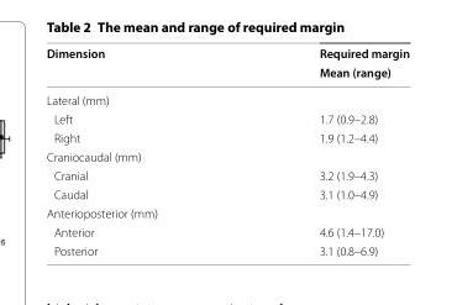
<table><thead><tr><td rowspan="2">Dimension</td><td rowspan="2">Required margin Mean (range)</td></tr><tr></tr></thead><tbody><tr><td colspan="2">Lateral (mm)</td></tr><tr><td>Left</td><td>1.7 (0.9–2.8)</td></tr><tr><td>Right</td><td>1.9 (1.2–4.4)</td></tr><tr><td colspan="2">Craniocaudal (mm)</td></tr><tr><td>Cranial</td><td>3.2 (1.9–4.3)</td></tr><tr><td>Caudal</td><td>3.1 (1.0–4.9)</td></tr><tr><td colspan="2">Anterioposterior (mm)</td></tr><tr><td>Anterior</td><td>4.6 (1.4–17.0)</td></tr><tr><td>Posterior</td><td>3.1 (0.8–6.9)</td></tr></tbody></table>